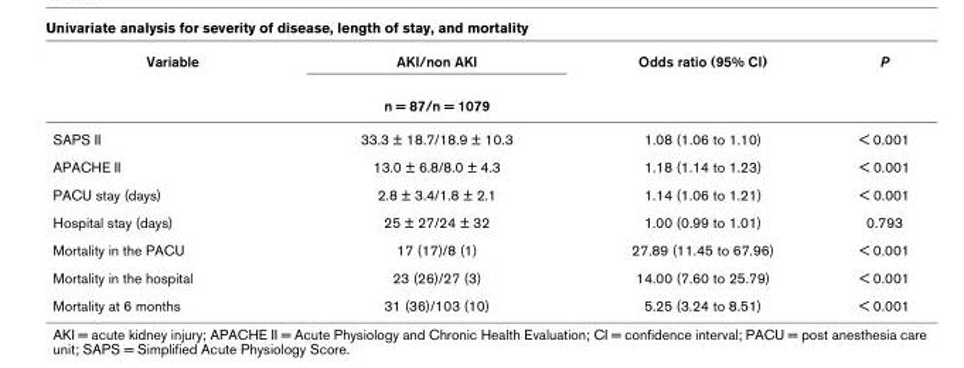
<table><thead><tr><td rowspan="2">Variable</td><td rowspan="2">AKI/non AKI n = 87/n = 1079</td><td rowspan="2">Odds ratio (95% CI)</td><td rowspan="2">P</td></tr><tr></tr></thead><tbody><tr><td>SAPS II</td><td>33.3 ± 18.7/18.9 ± 10.3</td><td>1.08 (1.06 to 1.10)</td><td>&lt; 0.001</td></tr><tr><td>APACHE II</td><td>13.0 ± 6.8/8.0 ± 4.3</td><td>1.18 (1.14 to 1.23)</td><td>&lt; 0.001</td></tr><tr><td>PACU stay (days)</td><td>2.8 ± 3.4/1.8 ± 2.1</td><td>1.14 (1.06 to 1.21)</td><td>&lt; 0.001</td></tr><tr><td>Hospital stay (days)</td><td>25 ± 27/24 ± 32</td><td>1.00 (0.99 to 1.01)</td><td>0.793</td></tr><tr><td>Mortality in the PACU</td><td>17 (17)/8 (1)</td><td>27.89 (11.45 to 67.96)</td><td>&lt; 0.001</td></tr><tr><td>Mortality in the hospital</td><td>23 (26)/27 (3)</td><td>14.00 (7.60 to 25.79)</td><td>&lt; 0.001</td></tr><tr><td>Mortality at 6 months</td><td>31 (36)/103 (10)</td><td>5.25 (3.24 to 8.51)</td><td>&lt; 0.001</td></tr></tbody></table>